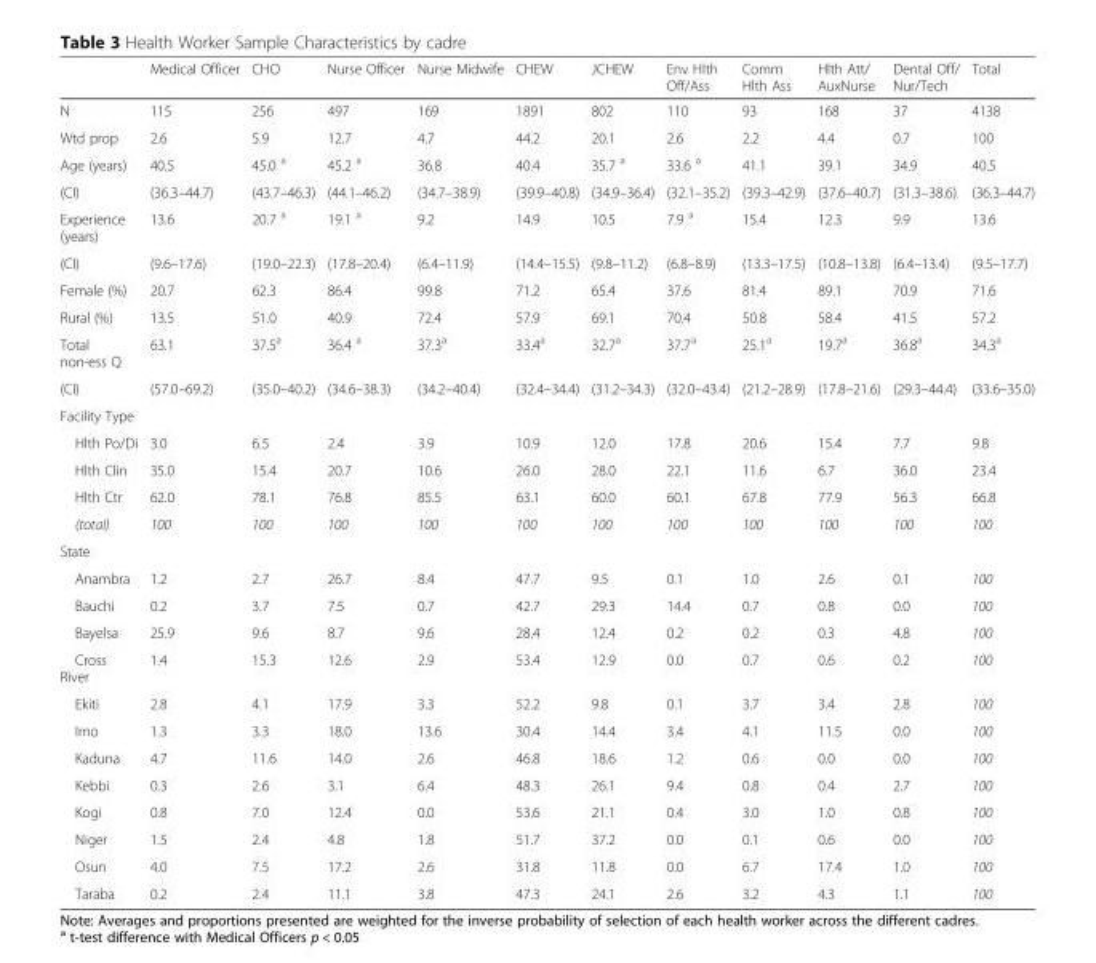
<table><thead><tr><td></td><td>Medical Officer</td><td>CHO</td><td>Nurse Officer</td><td>Nurse Midwife</td><td>CHEW</td><td>JCHEW</td><td>Env Hlth Off/Ass</td><td>Comm Hlth Ass</td><td>Hlth Att/ AuxNurse</td><td>Dental Off/ Nur/Tech</td><td>Total</td></tr></thead><tbody><tr><td>N</td><td>115</td><td>256</td><td>497</td><td>169</td><td>1891</td><td>802</td><td>110</td><td>93</td><td>168</td><td>37</td><td>4138</td></tr><tr><td>Wtd prop</td><td>2.6</td><td>5.9</td><td>12.7</td><td>4.7</td><td>44.2</td><td>20.1</td><td>2.6</td><td>2.2</td><td>4.4</td><td>0.7</td><td>100</td></tr><tr><td>Age (years)</td><td>40.5</td><td>45.0 <sup>a</sup></td><td>45.2 <sup>a</sup></td><td>36.8</td><td>40.4</td><td>35.7 <sup>a</sup></td><td>33.6 <sup>a</sup></td><td>41.1</td><td>39.1</td><td>34.9</td><td>40.5</td></tr><tr><td>(CI)</td><td>(36.3–44.7)</td><td>(43.7–46.3)</td><td>(44.1–46.2)</td><td>(34.7–38.9)</td><td>(39.9–40.8)</td><td>(34.9–36.4)</td><td>(32.1–35.2)</td><td>(39.3–42.9)</td><td>(37.6–40.7)</td><td>(31.3–38.6)</td><td>(36.3–44.7)</td></tr><tr><td>Experience (years)</td><td>13.6</td><td>20.7 <sup>a</sup></td><td>19.1 <sup>a</sup></td><td>9.2</td><td>14.9</td><td>10.5</td><td>7.9 <sup>a</sup></td><td>15.4</td><td>12.3</td><td>9.9</td><td>13.6</td></tr><tr><td>(CI)</td><td>(9.6–17.6)</td><td>(19.0–22.3)</td><td>(17.8–20.4)</td><td>(6.4–11.9)</td><td>(14.4–15.5)</td><td>(9.8–11.2)</td><td>(6.8–8.9)</td><td>(13.3–17.5)</td><td>(10.8–13.8)</td><td>(6.4–13.4)</td><td>(9.5–17.7)</td></tr><tr><td>Female (%)</td><td>20.7</td><td>62.3</td><td>86.4</td><td>99.8</td><td>71.2</td><td>65.4</td><td>37.6</td><td>81.4</td><td>89.1</td><td>70.9</td><td>71.6</td></tr><tr><td>Rural (%)</td><td>13.5</td><td>51.0</td><td>40.9</td><td>72.4</td><td>57.9</td><td>69.1</td><td>70.4</td><td>50.8</td><td>58.4</td><td>41.5</td><td>57.2</td></tr><tr><td>Total non-ess Q</td><td>63.1</td><td>37.5<sup>a</sup></td><td>36.4 <sup>a</sup></td><td>37.3<sup>a</sup></td><td>33.4<sup>a</sup></td><td>32.7<sup>a</sup></td><td>37.7<sup>a</sup></td><td>25.1<sup>a</sup></td><td>19.7<sup>a</sup></td><td>36.8<sup>a</sup></td><td>34.3<sup>a</sup></td></tr><tr><td>(CI)</td><td>(57.0–69.2)</td><td>(35.0–40.2)</td><td>(34.6–38.3)</td><td>(34.2–40.4)</td><td>(32.4–34.4)</td><td>(31.2–34.3)</td><td>(32.0–43.4)</td><td>(21.2–28.9)</td><td>(17.8–21.6)</td><td>(29.3–44.4)</td><td>(33.6–35.0)</td></tr><tr><td colspan="12">Facility Type</td></tr><tr><td>Hlth Po/Di</td><td>3.0</td><td>6.5</td><td>2.4</td><td>3.9</td><td>10.9</td><td>12.0</td><td>17.8</td><td>20.6</td><td>15.4</td><td>7.7</td><td>9.8</td></tr><tr><td>Hlth Clin</td><td>35.0</td><td>15.4</td><td>20.7</td><td>10.6</td><td>26.0</td><td>28.0</td><td>22.1</td><td>11.6</td><td>6.7</td><td>36.0</td><td>23.4</td></tr><tr><td>Hlth Ctr</td><td>62.0</td><td>78.1</td><td>76.8</td><td>85.5</td><td>63.1</td><td>60.0</td><td>60.1</td><td>67.8</td><td>77.9</td><td>56.3</td><td>66.8</td></tr><tr><td>(total)</td><td>100</td><td>100</td><td>100</td><td>100</td><td>100</td><td>100</td><td>100</td><td>100</td><td>100</td><td>100</td><td>100</td></tr><tr><td colspan="12">State</td></tr><tr><td>Anambra</td><td>1.2</td><td>2.7</td><td>26.7</td><td>8.4</td><td>47.7</td><td>9.5</td><td>0.1</td><td>1.0</td><td>2.6</td><td>0.1</td><td>100</td></tr><tr><td>Bauchi</td><td>0.2</td><td>3.7</td><td>7.5</td><td>0.7</td><td>42.7</td><td>29.3</td><td>14.4</td><td>0.7</td><td>0.8</td><td>0.0</td><td>100</td></tr><tr><td>Bayelsa</td><td>25.9</td><td>9.6</td><td>8.7</td><td>9.6</td><td>28.4</td><td>12.4</td><td>0.2</td><td>0.2</td><td>0.3</td><td>4.8</td><td>100</td></tr><tr><td>Cross River</td><td>1.4</td><td>15.3</td><td>12.6</td><td>2.9</td><td>53.4</td><td>12.9</td><td>0.0</td><td>0.7</td><td>0.6</td><td>0.2</td><td>100</td></tr><tr><td>Ekiti</td><td>2.8</td><td>4.1</td><td>17.9</td><td>3.3</td><td>52.2</td><td>9.8</td><td>0.1</td><td>3.7</td><td>3.4</td><td>2.8</td><td>100</td></tr><tr><td>Imo</td><td>1.3</td><td>3.3</td><td>18.0</td><td>13.6</td><td>30.4</td><td>14.4</td><td>3.4</td><td>4.1</td><td>11.5</td><td>0.0</td><td>100</td></tr><tr><td>Kaduna</td><td>4.7</td><td>11.6</td><td>14.0</td><td>2.6</td><td>46.8</td><td>18.6</td><td>1.2</td><td>0.6</td><td>0.0</td><td>0.0</td><td>100</td></tr><tr><td>Kebbi</td><td>0.3</td><td>2.6</td><td>3.1</td><td>6.4</td><td>48.3</td><td>26.1</td><td>9.4</td><td>0.8</td><td>0.4</td><td>2.7</td><td>100</td></tr><tr><td>Kogi</td><td>0.8</td><td>7.0</td><td>12.4</td><td>0.0</td><td>53.6</td><td>21.1</td><td>0.4</td><td>3.0</td><td>1.0</td><td>0.8</td><td>100</td></tr><tr><td>Niger</td><td>1.5</td><td>2.4</td><td>4.8</td><td>1.8</td><td>51.7</td><td>37.2</td><td>0.0</td><td>0.1</td><td>0.6</td><td>0.0</td><td>100</td></tr><tr><td>Osun</td><td>4.0</td><td>7.5</td><td>17.2</td><td>2.6</td><td>31.8</td><td>11.8</td><td>0.0</td><td>6.7</td><td>17.4</td><td>1.0</td><td>100</td></tr><tr><td>Taraba</td><td>0.2</td><td>2.4</td><td>11.1</td><td>3.8</td><td>47.3</td><td>24.1</td><td>2.6</td><td>3.2</td><td>4.3</td><td>1.1</td><td>100</td></tr></tbody></table>